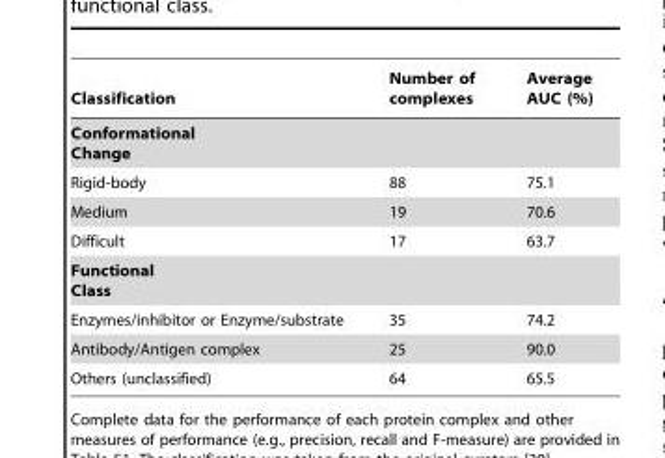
<table><thead><tr><td>Classification</td><td>Number of complexes</td><td>Average AUC (%)</td></tr></thead><tbody><tr><td colspan="3">Conformational Change</td></tr><tr><td>Rigid-body</td><td>88</td><td>75.1</td></tr><tr><td>Medium</td><td>19</td><td>70.6</td></tr><tr><td>Difficult</td><td>17</td><td>63.7</td></tr><tr><td colspan="3">Functional Class</td></tr><tr><td>Enzymes/inhibitor or Enzyme/substrate</td><td>35</td><td>74.2</td></tr><tr><td>Antibody/Antigen complex</td><td>25</td><td>90.0</td></tr><tr><td>Others (unclassified)</td><td>64</td><td>65.5</td></tr></tbody></table>